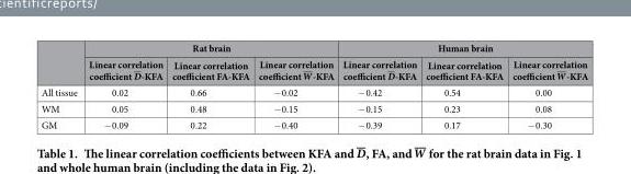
<table><thead><tr><td rowspan="2"></td><td colspan="3">Rat brain</td><td colspan="3">Human brain</td></tr><tr><td>Linear correlation coefficient D-KFA</td><td>Linear correlation coefficient FA-KFA</td><td>Linear correlation coefficient W-KFA</td><td>Linear correlation coefficient D-KFA</td><td>Linear correlation coefficient FA-KFA</td><td>Linear correlation coefficient W-KFA</td></tr></thead><tbody><tr><td>All tissue</td><td>0.02</td><td>0.66</td><td>− 0.02</td><td>− 0.42</td><td>0.54</td><td>0.00</td></tr><tr><td>WM</td><td>0.05</td><td>0.48</td><td>− 0.15</td><td>− 0.15</td><td>0.23</td><td>0.08</td></tr><tr><td>GM</td><td>− 0.09</td><td>0.22</td><td>− 0.40</td><td>− 0.39</td><td>0.17</td><td>− 0.30</td></tr></tbody></table>